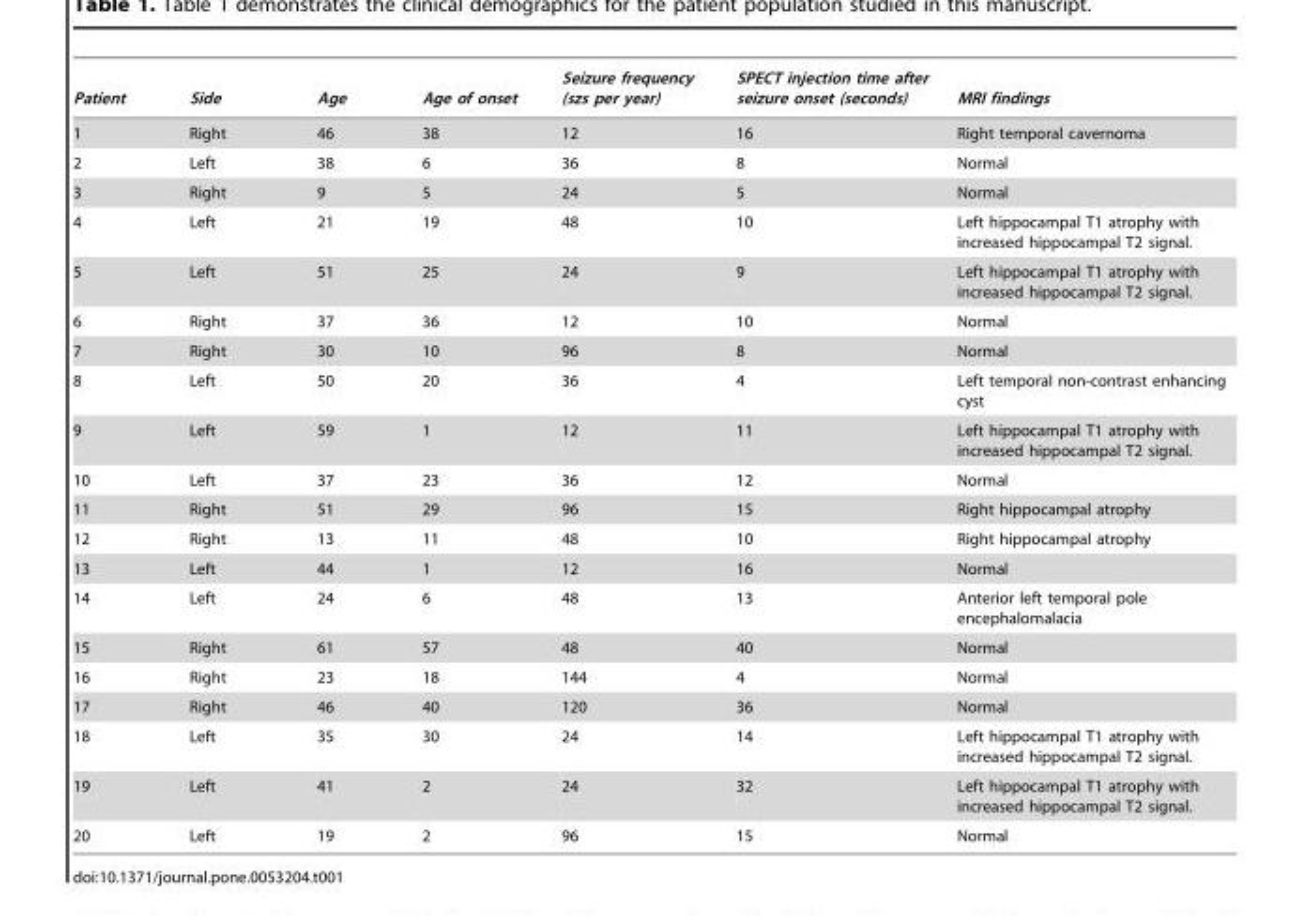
<table><thead><tr><td>Patient</td><td>Side</td><td>Age</td><td>Age of onset</td><td>Seizure frequency (szs per year)</td><td>SPECT injection time after seizure onset (seconds)</td><td>MRI findings</td></tr></thead><tbody><tr><td>1</td><td>Right</td><td>46</td><td>38</td><td>12</td><td>16</td><td>Right temporal cavernoma</td></tr><tr><td>2</td><td>Left</td><td>38</td><td>6</td><td>36</td><td>8</td><td>Normal</td></tr><tr><td>3</td><td>Right</td><td>9</td><td>5</td><td>24</td><td>5</td><td>Normal</td></tr><tr><td>4</td><td>Left</td><td>21</td><td>19</td><td>48</td><td>10</td><td>Left hippocampal T1 atrophy with increased hippocampal T2 signal.</td></tr><tr><td>5</td><td>Left</td><td>51</td><td>25</td><td>24</td><td>9</td><td>Left hippocampal T1 atrophy with increased hippocampal T2 signal.</td></tr><tr><td>6</td><td>Right</td><td>37</td><td>36</td><td>12</td><td>10</td><td>Normal</td></tr><tr><td>7</td><td>Right</td><td>30</td><td>10</td><td>96</td><td>8</td><td>Normal</td></tr><tr><td>8</td><td>Left</td><td>50</td><td>20</td><td>36</td><td>4</td><td>Left temporal non-contrast enhancing cyst</td></tr><tr><td>9</td><td>Left</td><td>59</td><td>1</td><td>12</td><td>11</td><td>Left hippocampal T1 atrophy with increased hippocampal T2 signal.</td></tr><tr><td>10</td><td>Left</td><td>37</td><td>23</td><td>36</td><td>12</td><td>Normal</td></tr><tr><td>11</td><td>Right</td><td>51</td><td>29</td><td>96</td><td>15</td><td>Right hippocampal atrophy</td></tr><tr><td>12</td><td>Right</td><td>13</td><td>11</td><td>48</td><td>10</td><td>Right hippocampal atrophy</td></tr><tr><td>13</td><td>Left</td><td>44</td><td>1</td><td>12</td><td>16</td><td>Normal</td></tr><tr><td>14</td><td>Left</td><td>24</td><td>6</td><td>48</td><td>13</td><td>Anterior left temporal pole encephalomalacia</td></tr><tr><td>15</td><td>Right</td><td>61</td><td>57</td><td>48</td><td>40</td><td>Normal</td></tr><tr><td>16</td><td>Right</td><td>23</td><td>18</td><td>144</td><td>4</td><td>Normal</td></tr><tr><td>17</td><td>Right</td><td>46</td><td>40</td><td>120</td><td>36</td><td>Normal</td></tr><tr><td>18</td><td>Left</td><td>35</td><td>30</td><td>24</td><td>14</td><td>Left hippocampal T1 atrophy with increased hippocampal T2 signal.</td></tr><tr><td>19</td><td>Left</td><td>41</td><td>2</td><td>24</td><td>32</td><td>Left hippocampal T1 atrophy with increased hippocampal T2 signal.</td></tr><tr><td>20</td><td>Left</td><td>19</td><td>2</td><td>96</td><td>15</td><td>Normal</td></tr></tbody></table>